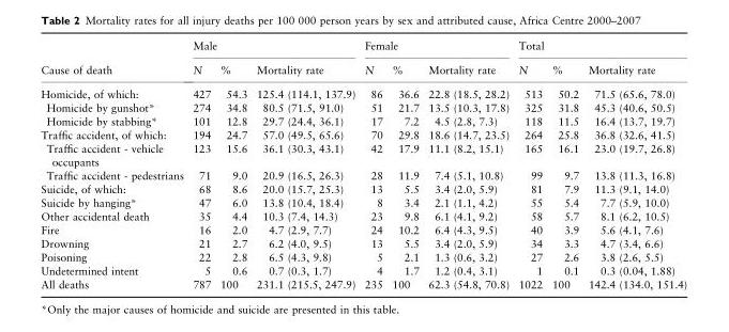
<table><thead><tr><td rowspan="2">Cause of death</td><td colspan="3">Male</td><td colspan="3">Female</td><td colspan="3">Total</td></tr><tr><td>N</td><td>%</td><td>Mortality rate</td><td>N</td><td>%</td><td>Mortality rate</td><td>N</td><td>%</td><td>Mortality rate</td></tr></thead><tbody><tr><td>Homicide, of which:</td><td>427</td><td>54.3</td><td>125.4 (114.1, 137.9)</td><td>86</td><td>36.6</td><td>22.8 (18.5, 28.2)</td><td>513</td><td>50.2</td><td>71.5 (65.6, 78.0)</td></tr><tr><td>Homicide by gunshot*</td><td>274</td><td>34.8</td><td>80.5 (71.5, 91.0)</td><td>51</td><td>21.7</td><td>13.5 (10.3, 17.8)</td><td>325</td><td>31.8</td><td>45.3 (40.6, 50.5)</td></tr><tr><td>Homicide by stabbing*</td><td>101</td><td>12.8</td><td>29.7 (24.4, 36.1)</td><td>17</td><td>7.2</td><td>4.5 (2.8, 7.3)</td><td>118</td><td>11.5</td><td>16.4 (13.7, 19.7)</td></tr><tr><td>Traffic accident, of which:</td><td>194</td><td>24.7</td><td>57.0 (49.5, 65.6)</td><td>70</td><td>29.8</td><td>18.6 (14.7, 23.5)</td><td>264</td><td>25.8</td><td>36.8 (32.6, 41.5)</td></tr><tr><td>Traffic accident - vehicle occupants</td><td>123</td><td>15.6</td><td>36.1 (30.3, 43.1)</td><td>42</td><td>17.9</td><td>11.1 (8.2, 15.1)</td><td>165</td><td>16.1</td><td>23.0 (19.7, 26.8)</td></tr><tr><td>Traffic accident - pedestrians</td><td>71</td><td>9.0</td><td>20.9 (16.5, 26.3)</td><td>28</td><td>11.9</td><td>7.4 (5.1, 10.8)</td><td>99</td><td>9.7</td><td>13.8 (11.3, 16.8)</td></tr><tr><td>Suicide, of which:</td><td>68</td><td>8.6</td><td>20.0 (15.7, 25.3)</td><td>13</td><td>5.5</td><td>3.4 (2.0, 5.9)</td><td>81</td><td>7.9</td><td>11.3 (9.1, 14.0)</td></tr><tr><td>Suicide by hanging*</td><td>47</td><td>6.0</td><td>13.8 (10.4, 18.4)</td><td>8</td><td>3.4</td><td>2.1 (1.1, 4.2)</td><td>55</td><td>5.4</td><td>7.7 (5.9, 10.0)</td></tr><tr><td>Other accidental death</td><td>35</td><td>4.4</td><td>10.3 (7.4, 14.3)</td><td>23</td><td>9.8</td><td>6.1 (4.1, 9.2)</td><td>58</td><td>5.7</td><td>8.1 (6.2, 10.5)</td></tr><tr><td>Fire</td><td>16</td><td>2.0</td><td>4.7 (2.9, 7.7)</td><td>24</td><td>10.2</td><td>6.4 (4.3, 9.5)</td><td>40</td><td>3.9</td><td>5.6 (4.1, 7.6)</td></tr><tr><td>Drowning</td><td>21</td><td>2.7</td><td>6.2 (4.0, 9.5)</td><td>13</td><td>5.5</td><td>3.4 (2.0, 5.9)</td><td>34</td><td>3.3</td><td>4.7 (3.4, 6.6)</td></tr><tr><td>Poisoning</td><td>22</td><td>2.8</td><td>6.5 (4.3, 9.8)</td><td>5</td><td>2.1</td><td>1.3 (0.6, 3.2)</td><td>27</td><td>2.6</td><td>3.8 (2.6, 5.5)</td></tr><tr><td>Undetermined intent</td><td>5</td><td>0.6</td><td>0.7 (0.3, 1.7)</td><td>4</td><td>1.7</td><td>1.2 (0.4, 3.1)</td><td>1</td><td>0.1</td><td>0.3 (0.04, 1.88)</td></tr><tr><td>All deaths</td><td>787</td><td>100</td><td>231.1 (215.5, 247.9)</td><td>235</td><td>100</td><td>62.3 (54.8, 70.8)</td><td>1022</td><td>100</td><td>142.4 (134.0, 151.4)</td></tr></tbody></table>